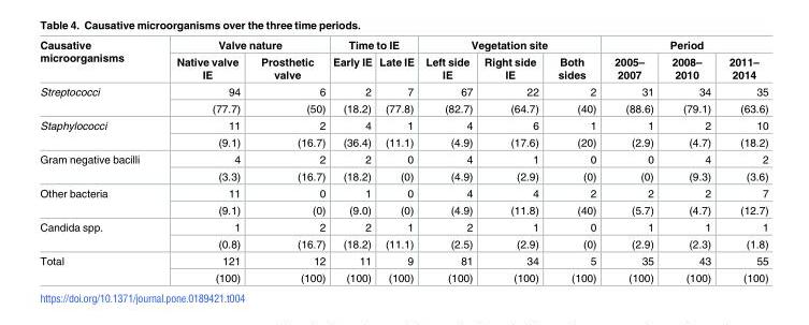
<table><thead><tr><td rowspan="2">Causative microorganisms</td><td colspan="2">Valve nature</td><td colspan="2">Time to IE</td><td colspan="3">Vegetation site</td><td colspan="3">Period</td></tr><tr><td>Native valve IE</td><td>Prosthetic valve</td><td>Early IE</td><td>Late IE</td><td>Left side IE</td><td>Right side IE</td><td>Both sides</td><td>2005– 2007</td><td>2008– 2010</td><td>2011– 2014</td></tr></thead><tbody><tr><td rowspan="2">Streptococci</td><td>94</td><td>6</td><td>2</td><td>7</td><td>67</td><td>22</td><td>2</td><td>31</td><td>34</td><td>35</td></tr><tr><td>(77.7)</td><td>(50)</td><td>(18.2)</td><td>(77.8)</td><td>(82.7)</td><td>(64.7)</td><td>(40)</td><td>(88.6)</td><td>(79.1)</td><td>(63.6)</td></tr><tr><td rowspan="2">Staphylococci</td><td>11</td><td>2</td><td>4</td><td>1</td><td>4</td><td>6</td><td>1</td><td>1</td><td>2</td><td>10</td></tr><tr><td>(9.1)</td><td>(16.7)</td><td>(36.4)</td><td>(11.1)</td><td>(4.9)</td><td>(17.6)</td><td>(20)</td><td>(2.9)</td><td>(4.7)</td><td>(18.2)</td></tr><tr><td rowspan="2">Gram negative bacilli</td><td>4</td><td>2</td><td>2</td><td>0</td><td>4</td><td>1</td><td>0</td><td>0</td><td>4</td><td>2</td></tr><tr><td>(3.3)</td><td>(16.7)</td><td>(18.2)</td><td>(0)</td><td>(4.9)</td><td>(2.9)</td><td>(0)</td><td>(0)</td><td>(9.3)</td><td>(3.6)</td></tr><tr><td rowspan="2">Other bacteria</td><td>11</td><td>0</td><td>1</td><td>0</td><td>4</td><td>4</td><td>2</td><td>2</td><td>2</td><td>7</td></tr><tr><td>(9.1)</td><td>(0)</td><td>(9.0)</td><td>(0)</td><td>(4.9)</td><td>(11.8)</td><td>(40)</td><td>(5.7)</td><td>(4.7)</td><td>(12.7)</td></tr><tr><td rowspan="2">Candida spp.</td><td>1</td><td>2</td><td>2</td><td>1</td><td>2</td><td>1</td><td>0</td><td>1</td><td>1</td><td>1</td></tr><tr><td>(0.8)</td><td>(16.7)</td><td>(18.2)</td><td>(11.1)</td><td>(2.5)</td><td>(2.9)</td><td>(0)</td><td>(2.9)</td><td>(2.3)</td><td>(1.8)</td></tr><tr><td rowspan="2">Total</td><td>121</td><td>12</td><td>11</td><td>9</td><td>81</td><td>34</td><td>5</td><td>35</td><td>43</td><td>55</td></tr><tr><td>(100)</td><td>(100)</td><td>(100)</td><td>(100)</td><td>(100)</td><td>(100)</td><td>(100)</td><td>(100)</td><td>(100)</td><td>(100)</td></tr></tbody></table>